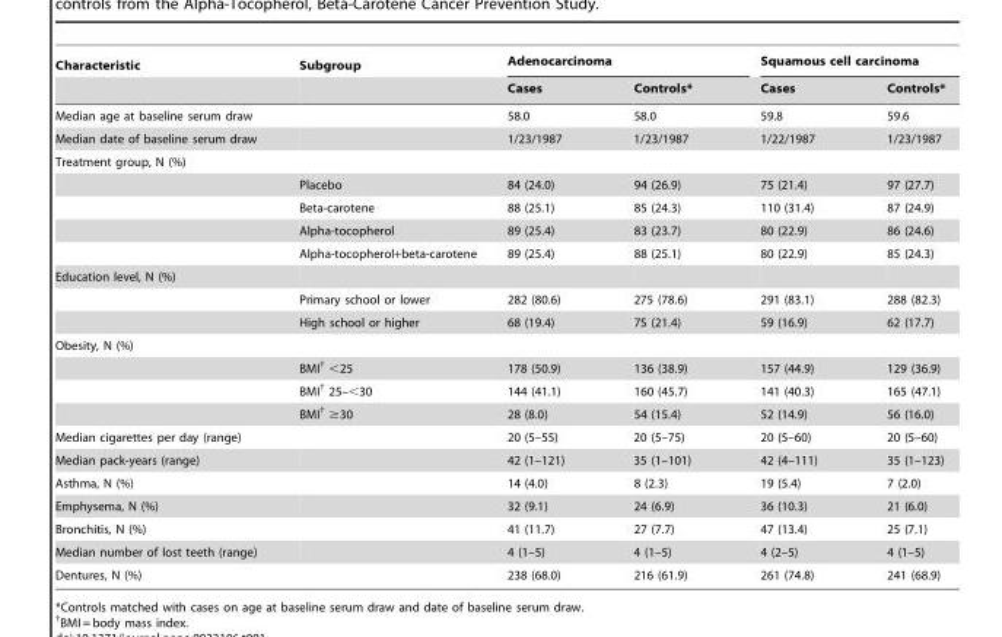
<table><thead><tr><td rowspan="2">Characteristic</td><td rowspan="2">Subgroup</td><td colspan="2">Adenocarcinoma</td><td colspan="2">Squamous cell carcinoma</td></tr><tr><td>Cases</td><td>Controls*</td><td>Cases</td><td>Controls*</td></tr></thead><tbody><tr><td>Median age at baseline serum draw</td><td></td><td>58.0</td><td>58.0</td><td>59.8</td><td>59.6</td></tr><tr><td>Median date of baseline serum draw</td><td></td><td>1/23/1987</td><td>1/23/1987</td><td>1/22/1987</td><td>1/23/1987</td></tr><tr><td colspan="6">Treatment group, N (%)</td></tr><tr><td></td><td>Placebo</td><td>84 (24.0)</td><td>94 (26.9)</td><td>75 (21.4)</td><td>97 (27.7)</td></tr><tr><td></td><td>Beta-carotene</td><td>88 (25.1)</td><td>85 (24.3)</td><td>110 (31.4)</td><td>87 (24.9)</td></tr><tr><td></td><td>Alpha-tocopherol</td><td>89 (25.4)</td><td>83 (23.7)</td><td>80 (22.9)</td><td>86 (24.6)</td></tr><tr><td></td><td>Alpha-tocopherol+beta-carotene</td><td>89 (25.4)</td><td>88 (25.1)</td><td>80 (22.9)</td><td>85 (24.3)</td></tr><tr><td colspan="6">Education level, N (%)</td></tr><tr><td></td><td>Primary school or lower</td><td>282 (80.6)</td><td>275 (78.6)</td><td>291 (83.1)</td><td>288 (82.3)</td></tr><tr><td></td><td>High school or higher</td><td>68 (19.4)</td><td>75 (21.4)</td><td>59 (16.9)</td><td>62 (17.7)</td></tr><tr><td colspan="6">Obesity, N (%)</td></tr><tr><td></td><td>BMI† &lt;25</td><td>178 (50.9)</td><td>136 (38.9)</td><td>157 (44.9)</td><td>129 (36.9)</td></tr><tr><td></td><td>BMI† 25–&lt;30</td><td>144 (41.1)</td><td>160 (45.7)</td><td>141 (40.3)</td><td>165 (47.1)</td></tr><tr><td></td><td>BMI† ≥30</td><td>28 (8.0)</td><td>54 (15.4)</td><td>52 (14.9)</td><td>56 (16.0)</td></tr><tr><td>Median cigarettes per day (range)</td><td></td><td>20 (5–55)</td><td>20 (5–75)</td><td>20 (5–60)</td><td>20 (5–60)</td></tr><tr><td>Median pack-years (range)</td><td></td><td>42 (1–121)</td><td>35 (1–101)</td><td>42 (4–111)</td><td>35 (1–123)</td></tr><tr><td>Asthma, N (%)</td><td></td><td>14 (4.0)</td><td>8 (2.3)</td><td>19 (5.4)</td><td>7 (2.0)</td></tr><tr><td>Emphysema, N (%)</td><td></td><td>32 (9.1)</td><td>24 (6.9)</td><td>36 (10.3)</td><td>21 (6.0)</td></tr><tr><td>Bronchitis, N (%)</td><td></td><td>41 (11.7)</td><td>27 (7.7)</td><td>47 (13.4)</td><td>25 (7.1)</td></tr><tr><td>Median number of lost teeth (range)</td><td></td><td>4 (1–5)</td><td>4 (1–5)</td><td>4 (2–5)</td><td>4 (1–5)</td></tr><tr><td>Dentures, N (%)</td><td></td><td>238 (68.0)</td><td>216 (61.9)</td><td>261 (74.8)</td><td>241 (68.9)</td></tr></tbody></table>